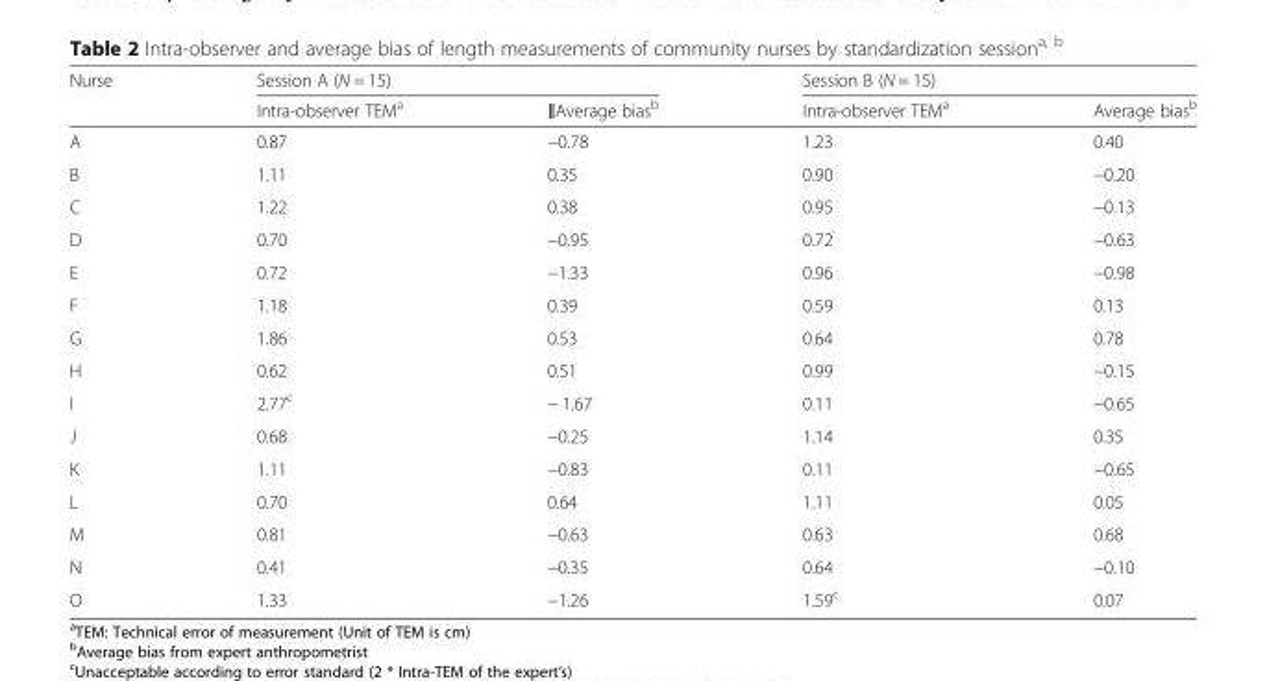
<table><thead><tr><td rowspan="2">Nurse</td><td colspan="2">Session A (N = 15)</td><td colspan="2">Session B (N = 15)</td></tr><tr><td>Intra-observer TEM<sup>a</sup></td><td>‖Average bias<sup>b</sup></td><td>Intra-observer TEM<sup>a</sup></td><td>Average bias<sup>b</sup></td></tr></thead><tbody><tr><td>A</td><td>0.87</td><td>−0.78</td><td>1.23</td><td>0.40</td></tr><tr><td>B</td><td>1.11</td><td>0.35</td><td>0.90</td><td>−0.20</td></tr><tr><td>C</td><td>1.22</td><td>0.38</td><td>0.95</td><td>−0.13</td></tr><tr><td>D</td><td>0.70</td><td>−0.95</td><td>0.72</td><td>−0.63</td></tr><tr><td>E</td><td>0.72</td><td>−1.33</td><td>0.96</td><td>−0.98</td></tr><tr><td>F</td><td>1.18</td><td>0.39</td><td>0.59</td><td>0.13</td></tr><tr><td>G</td><td>1.86</td><td>0.53</td><td>0.64</td><td>0.78</td></tr><tr><td>H</td><td>0.62</td><td>0.51</td><td>0.99</td><td>−0.15</td></tr><tr><td>I</td><td>2.77<sup>c</sup></td><td>− 1.67</td><td>0.11</td><td>−0.65</td></tr><tr><td>J</td><td>0.68</td><td>−0.25</td><td>1.14</td><td>0.35</td></tr><tr><td>K</td><td>1.11</td><td>−0.83</td><td>0.11</td><td>−0.65</td></tr><tr><td>L</td><td>0.70</td><td>0.64</td><td>1.11</td><td>0.05</td></tr><tr><td>M</td><td>0.81</td><td>−0.63</td><td>0.63</td><td>0.68</td></tr><tr><td>N</td><td>0.41</td><td>−0.35</td><td>0.64</td><td>−0.10</td></tr><tr><td>O</td><td>1.33</td><td>−1.26</td><td>1.59<sup>c</sup></td><td>0.07</td></tr></tbody></table>